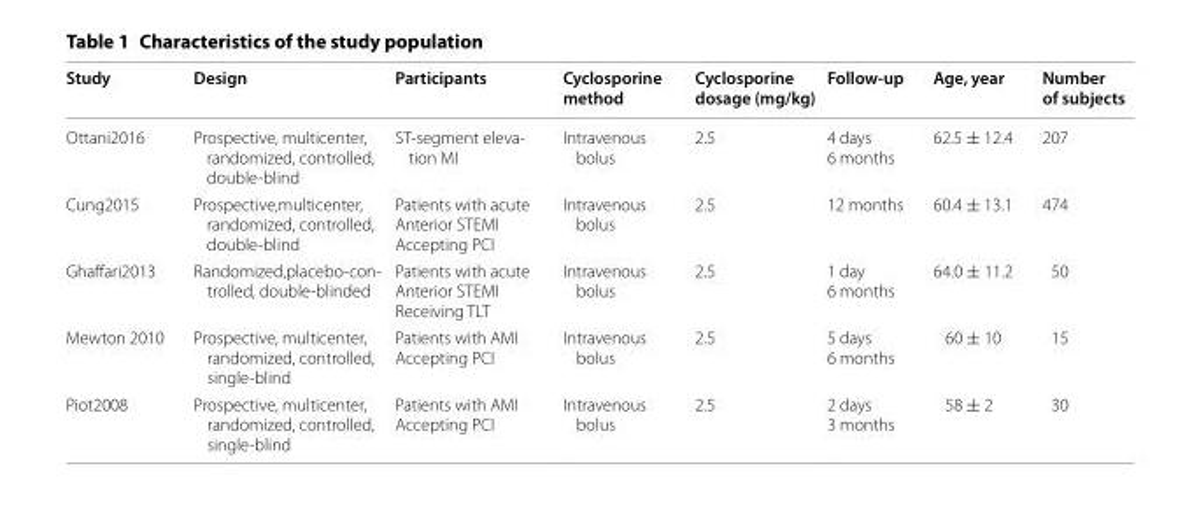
<table><thead><tr><td>Study</td><td>Design</td><td>Participants</td><td>Cyclosporine method</td><td>Cyclosporine dosage (mg/kg)</td><td>Follow-up</td><td>Age, year</td><td>Number of subjects</td></tr></thead><tbody><tr><td>Ottani2016</td><td>Prospective, multicenter, randomized, controlled, double-blind</td><td>ST-segment eleva- tion MI</td><td>Intravenous bolus</td><td>2.5</td><td>4 days 6 months</td><td>62.5 ± 12.4</td><td>207</td></tr><tr><td>Cung2015</td><td>Prospective,multicenter, randomized, controlled, double-blind</td><td>Patients with acute Anterior STEMI Accepting PCI</td><td>Intravenous bolus</td><td>2.5</td><td>12 months</td><td>60.4 ± 13.1</td><td>474</td></tr><tr><td>Ghaffari2013</td><td>Randomized,placebo-con- trolled, double-blinded</td><td>Patients with acute Anterior STEMI Receiving TLT</td><td>Intravenous bolus</td><td>2.5</td><td>1 day 6 months</td><td>64.0 ± 11.2</td><td>50</td></tr><tr><td>Mewton 2010</td><td>Prospective, multicenter, randomized, controlled, single-blind</td><td>Patients with AMI Accepting PCI</td><td>Intravenous bolus</td><td>2.5</td><td>5 days 6 months</td><td>60 ± 10</td><td>15</td></tr><tr><td>Piot2008</td><td>Prospective, multicenter, randomized, controlled, single-blind</td><td>Patients with AMI Accepting PCI</td><td>Intravenous bolus</td><td>2.5</td><td>2 days 3 months</td><td>58 ± 2</td><td>30</td></tr></tbody></table>